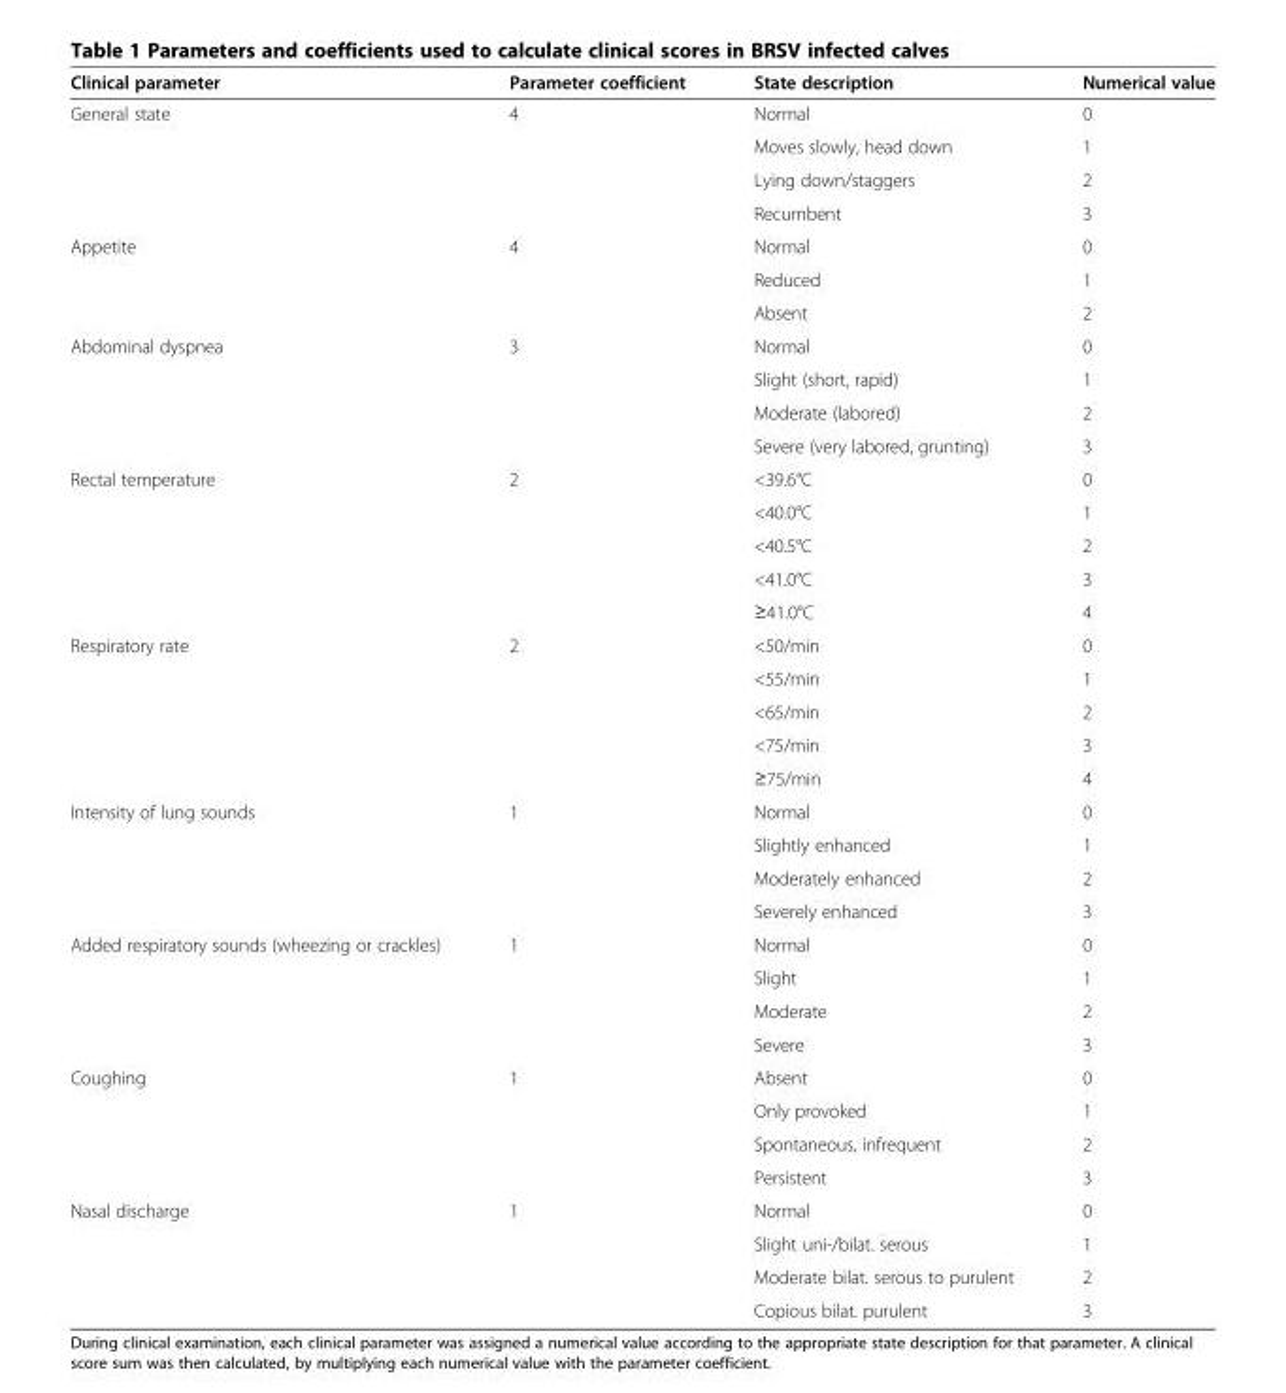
<table><thead><tr><td>Clinical parameter</td><td>Parameter coefficient</td><td>State description</td><td>Numerical value</td></tr></thead><tbody><tr><td rowspan="4">General state</td><td rowspan="4">4</td><td>Normal</td><td>0</td></tr><tr><td>Moves slowly, head down</td><td>1</td></tr><tr><td>Lying down/staggers</td><td>2</td></tr><tr><td>Recumbent</td><td>3</td></tr><tr><td rowspan="3">Appetite</td><td rowspan="3">4</td><td>Normal</td><td>0</td></tr><tr><td>Reduced</td><td>1</td></tr><tr><td>Absent</td><td>2</td></tr><tr><td rowspan="4">Abdominal dyspnea</td><td rowspan="4">3</td><td>Normal</td><td>0</td></tr><tr><td>Slight (short, rapid)</td><td>1</td></tr><tr><td>Moderate (labored)</td><td>2</td></tr><tr><td>Severe (very labored, grunting)</td><td>3</td></tr><tr><td rowspan="5">Rectal temperature</td><td rowspan="5">2</td><td>&lt;39.6°C</td><td>0</td></tr><tr><td>&lt;40.0°C</td><td>1</td></tr><tr><td>&lt;40.5°C</td><td>2</td></tr><tr><td>&lt;41.0°C</td><td>3</td></tr><tr><td>≥41.0°C</td><td>4</td></tr><tr><td rowspan="5">Respiratory rate</td><td rowspan="5">2</td><td>&lt;50/min</td><td>0</td></tr><tr><td>&lt;55/min</td><td>1</td></tr><tr><td>&lt;65/min</td><td>2</td></tr><tr><td>&lt;75/min</td><td>3</td></tr><tr><td>≥75/min</td><td>4</td></tr><tr><td rowspan="4">Intensity of lung sounds</td><td rowspan="4">1</td><td>Normal</td><td>0</td></tr><tr><td>Slightly enhanced</td><td>1</td></tr><tr><td>Moderately enhanced</td><td>2</td></tr><tr><td>Severely enhanced</td><td>3</td></tr><tr><td rowspan="4">Added respiratory sounds (wheezing or crackles)</td><td rowspan="4">1</td><td>Normal</td><td>0</td></tr><tr><td>Slight</td><td>1</td></tr><tr><td>Moderate</td><td>2</td></tr><tr><td>Severe</td><td>3</td></tr><tr><td rowspan="4">Coughing</td><td rowspan="4">1</td><td>Absent</td><td>0</td></tr><tr><td>Only provoked</td><td>1</td></tr><tr><td>Spontaneous, infrequent</td><td>2</td></tr><tr><td>Persistent</td><td>3</td></tr><tr><td rowspan="4">Nasal discharge</td><td rowspan="4">1</td><td>Normal</td><td>0</td></tr><tr><td>Slight uni-/bilat. serous</td><td>1</td></tr><tr><td>Moderate bilat. serous to purulent</td><td>2</td></tr><tr><td>Copious bilat. purulent</td><td>3</td></tr></tbody></table>